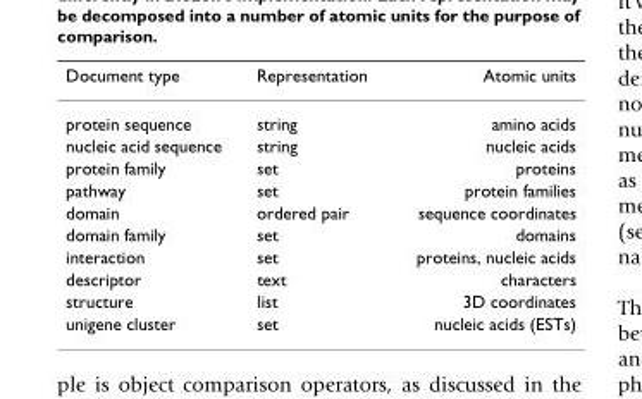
<table><thead><tr><td>Document type</td><td>Representation</td><td>Atomic units</td></tr></thead><tbody><tr><td>protein sequence</td><td>string</td><td>amino acids</td></tr><tr><td>nucleic acid sequence</td><td>string</td><td>nucleic acids</td></tr><tr><td>protein family</td><td>set</td><td>proteins</td></tr><tr><td>pathway</td><td>set</td><td>protein families</td></tr><tr><td>domain</td><td>ordered pair</td><td>sequence coordinates</td></tr><tr><td>domain family</td><td>set</td><td>domains</td></tr><tr><td>interaction</td><td>set</td><td>proteins, nucleic acids</td></tr><tr><td>descriptor</td><td>text</td><td>characters</td></tr><tr><td>structure</td><td>list</td><td>3D coordinates</td></tr><tr><td>unigene cluster</td><td>set</td><td>nucleic acids (ESTs)</td></tr></tbody></table>